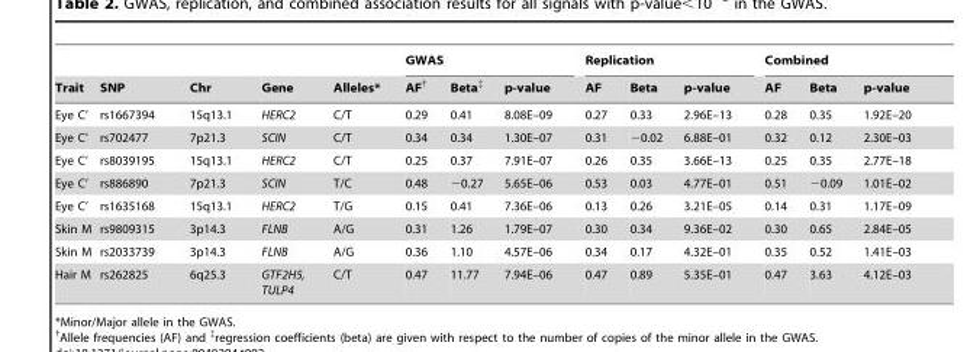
<table><thead><tr><td rowspan="2">Trait</td><td rowspan="2">SNP</td><td rowspan="2">Chr</td><td rowspan="2">Gene</td><td rowspan="2">Alleles*</td><td colspan="3">GWAS</td><td colspan="3">Replication</td><td colspan="3">Combined</td></tr><tr><td>AF†</td><td>Beta<sup>‡</sup></td><td>p-value</td><td>AF</td><td>Beta</td><td>p-value</td><td>AF</td><td>Beta</td><td>p-value</td></tr></thead><tbody><tr><td>Eye C’</td><td>rs1667394</td><td>15q13.1</td><td>HERC2</td><td>C/T</td><td>0.29</td><td>0.41</td><td>8.08E–09</td><td>0.27</td><td>0.33</td><td>2.96E–13</td><td>0.28</td><td>0.35</td><td>1.92E–20</td></tr><tr><td>Eye C’</td><td>rs702477</td><td>7p21.3</td><td>SCIN</td><td>C/T</td><td>0.34</td><td>0.34</td><td>1.30E–07</td><td>0.31</td><td>−0.02</td><td>6.88E–01</td><td>0.32</td><td>0.12</td><td>2.30E–03</td></tr><tr><td>Eye C’</td><td>rs8039195</td><td>15q13.1</td><td>HERC2</td><td>C/T</td><td>0.25</td><td>0.37</td><td>7.91E–07</td><td>0.26</td><td>0.35</td><td>3.66E–13</td><td>0.25</td><td>0.35</td><td>2.77E–18</td></tr><tr><td>Eye C’</td><td>rs886890</td><td>7p21.3</td><td>SCIN</td><td>T/C</td><td>0.48</td><td>−0.27</td><td>5.65E–06</td><td>0.53</td><td>0.03</td><td>4.77E–01</td><td>0.51</td><td>−0.09</td><td>1.01E–02</td></tr><tr><td>Eye C’</td><td>rs1635168</td><td>15q13.1</td><td>HERC2</td><td>T/G</td><td>0.15</td><td>0.41</td><td>7.36E–06</td><td>0.13</td><td>0.26</td><td>3.21E–05</td><td>0.14</td><td>0.31</td><td>1.17E–09</td></tr><tr><td>Skin M</td><td>rs9809315</td><td>3p14.3</td><td>FLNB</td><td>A/G</td><td>0.31</td><td>1.26</td><td>1.79E–07</td><td>0.30</td><td>0.34</td><td>9.36E–02</td><td>0.30</td><td>0.65</td><td>2.84E–05</td></tr><tr><td>Skin M</td><td>rs2033739</td><td>3p14.3</td><td>FLNB</td><td>A/G</td><td>0.36</td><td>1.10</td><td>4.57E–06</td><td>0.34</td><td>0.17</td><td>4.32E–01</td><td>0.35</td><td>0.52</td><td>1.41E–03</td></tr><tr><td>Hair M</td><td>rs262825</td><td>6q25.3</td><td>GTF2H5, TULP4</td><td>C/T</td><td>0.47</td><td>11.77</td><td>7.94E–06</td><td>0.47</td><td>0.89</td><td>5.35E–01</td><td>0.47</td><td>3.63</td><td>4.12E–03</td></tr></tbody></table>